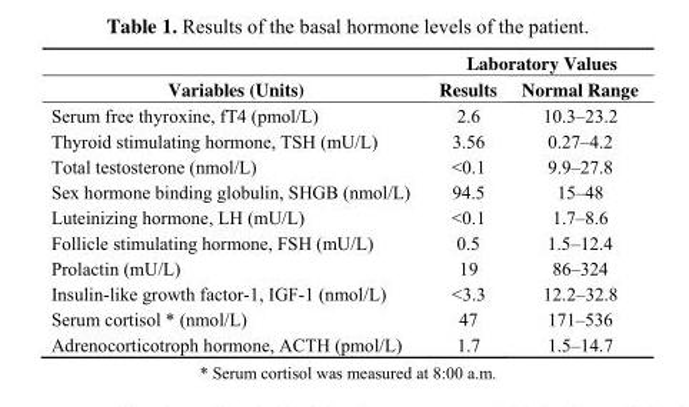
<table><thead><tr><td rowspan="2">Variables (Units)</td><td colspan="2">Laboratory Values</td></tr><tr><td>Results</td><td>Normal Range</td></tr></thead><tbody><tr><td>Serum free thyroxine, fT4 (pmol/L)</td><td>2.6</td><td>10.3–23.2</td></tr><tr><td>Thyroid stimulating hormone, TSH (mU/L)</td><td>3.56</td><td>0.27–4.2</td></tr><tr><td>Total testosterone (nmol/L)</td><td>&lt;0.1</td><td>9.9–27.8</td></tr><tr><td>Sex hormone binding globulin, SHGB (nmol/L)</td><td>94.5</td><td>15–48</td></tr><tr><td>Luteinizing hormone, LH (mU/L)</td><td>&lt;0.1</td><td>1.7–8.6</td></tr><tr><td>Follicle stimulating hormone, FSH (mU/L)</td><td>0.5</td><td>1.5–12.4</td></tr><tr><td>Prolactin (mU/L)</td><td>19</td><td>86–324</td></tr><tr><td>Insulin-like growth factor-1, IGF-1 (nmol/L)</td><td>&lt;3.3</td><td>12.2–32.8</td></tr><tr><td>Serum cortisol * (nmol/L)</td><td>47</td><td>171–536</td></tr><tr><td>Adrenocorticotroph hormone, ACTH (pmol/L)</td><td>1.7</td><td>1.5–14.7</td></tr></tbody></table>